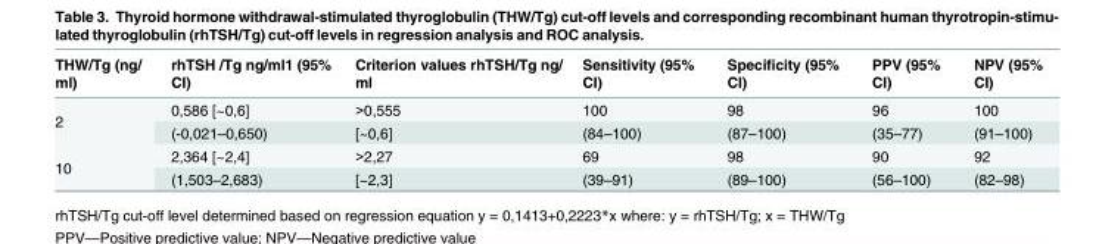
<table><thead><tr><td>THW/Tg (ng/ ml)</td><td>rhTSH /Tg ng/ml1 (95% CI)</td><td>Criterion values rhTSH/Tg ng/ ml</td><td>Sensitivity (95% CI)</td><td>Specificity (95% CI)</td><td>PPV (95% CI)</td><td>NPV (95% CI)</td></tr></thead><tbody><tr><td rowspan="2">2</td><td>0,586 [~0,6]</td><td>&gt;0,555</td><td>100</td><td>98</td><td>96</td><td>100</td></tr><tr><td>(-0,021–0,650)</td><td>[~0,6]</td><td>(84–100)</td><td>(87–100)</td><td>(35–77)</td><td>(91–100)</td></tr><tr><td rowspan="2">10</td><td>2,364 [~2,4]</td><td>&gt;2,27</td><td>69</td><td>98</td><td>90</td><td>92</td></tr><tr><td>(1,503–2,683)</td><td>[~2,3]</td><td>(39–91)</td><td>(89–100)</td><td>(56–100)</td><td>(82–98)</td></tr></tbody></table>